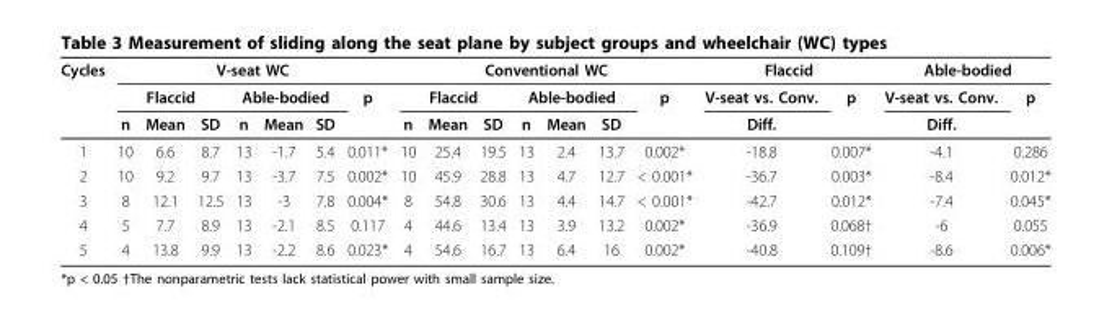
<table><thead><tr><td rowspan="3">Cycles</td><td colspan="7">V-seat WC</td><td colspan="7">Conventional WC</td><td colspan="2">Flaccid</td><td colspan="2">Able-bodied</td></tr><tr><td colspan="3">Flaccid</td><td colspan="3">Able-bodied</td><td rowspan="2">p</td><td colspan="3">Flaccid</td><td colspan="3">Able-bodied</td><td rowspan="2">p</td><td rowspan="2">V-seat vs. Conv. Diff.</td><td rowspan="2">p</td><td rowspan="2">V-seat vs. Conv. Diff.</td><td rowspan="2">p</td></tr><tr><td>n</td><td>Mean</td><td>SD</td><td>n</td><td>Mean</td><td>SD</td><td>n</td><td>Mean</td><td>SD</td><td>n</td><td>Mean</td><td>SD</td></tr></thead><tbody><tr><td>1</td><td>10</td><td>6.6</td><td>8.7</td><td>13</td><td>-1.7</td><td>5.4</td><td>0.011*</td><td>10</td><td>25.4</td><td>19.5</td><td>13</td><td>2.4</td><td>13.7</td><td>0.002*</td><td>-18.8</td><td>0.007*</td><td>-4.1</td><td>0.286</td></tr><tr><td>2</td><td>10</td><td>9.2</td><td>9.7</td><td>13</td><td>-3.7</td><td>7.5</td><td>0.002*</td><td>10</td><td>45.9</td><td>28.8</td><td>13</td><td>4.7</td><td>12.7</td><td>&lt; 0.001*</td><td>-36.7</td><td>0.003*</td><td>-8.4</td><td>0.012*</td></tr><tr><td>3</td><td>8</td><td>12.1</td><td>12.5</td><td>13</td><td>-3</td><td>7.8</td><td>0.004*</td><td>8</td><td>54.8</td><td>30.6</td><td>13</td><td>4.4</td><td>14.7</td><td>&lt; 0.001*</td><td>-42.7</td><td>0.012*</td><td>-7.4</td><td>0.045*</td></tr><tr><td>4</td><td>5</td><td>7.7</td><td>8.9</td><td>13</td><td>-2.1</td><td>8.5</td><td>0.117</td><td>4</td><td>44.6</td><td>13.4</td><td>13</td><td>3.9</td><td>13.2</td><td>0.002*</td><td>-36.9</td><td>0.068†</td><td>-6</td><td>0.055</td></tr><tr><td>5</td><td>4</td><td>13.8</td><td>9.9</td><td>13</td><td>-2.2</td><td>8.6</td><td>0.023*</td><td>4</td><td>54.6</td><td>16.7</td><td>13</td><td>6.4</td><td>16</td><td>0.002*</td><td>-40.8</td><td>0.109†</td><td>-8.6</td><td>0.006*</td></tr></tbody></table>